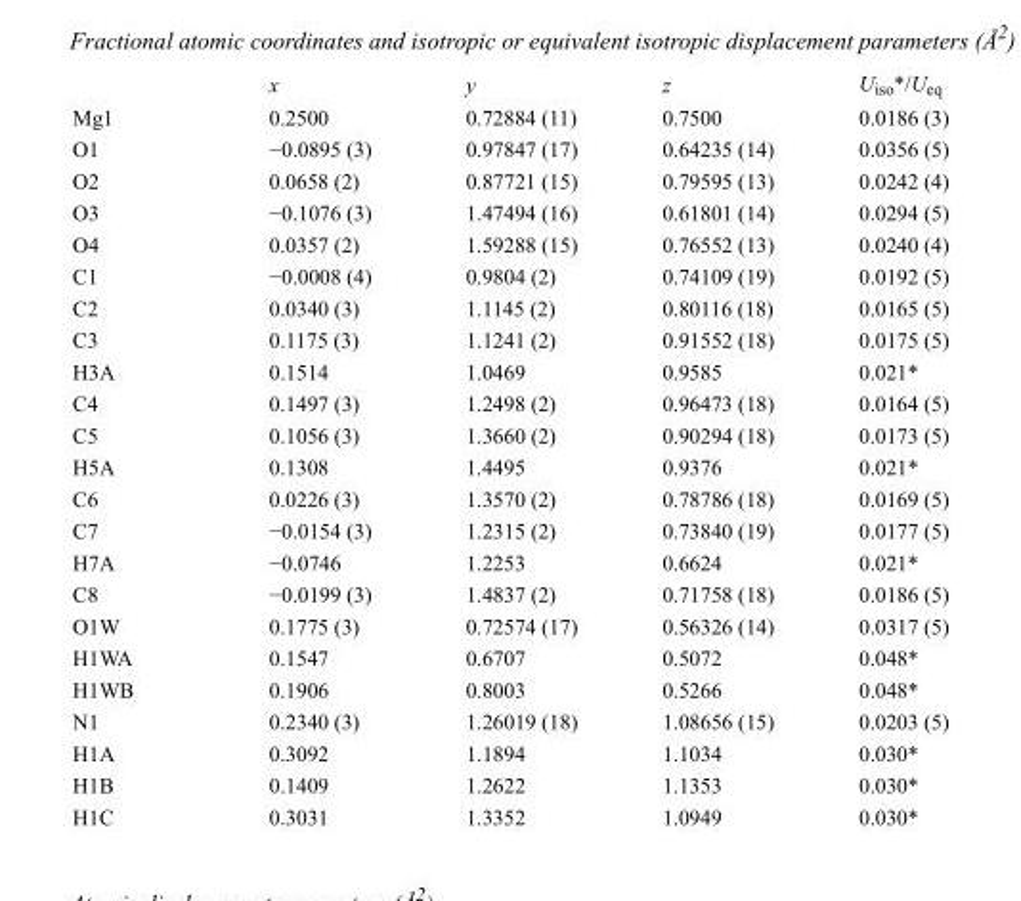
<table><thead><tr><td></td><td>x</td><td>y</td><td>z</td><td>U<sub>iso</sub>*/U<sub>eq</sub></td></tr></thead><tbody><tr><td>Mg1</td><td>0.2500</td><td>0.72884 (11)</td><td>0.7500</td><td>0.0186 (3)</td></tr><tr><td>O1</td><td>−0.0895 (3)</td><td>0.97847 (17)</td><td>0.64235 (14)</td><td>0.0356 (5)</td></tr><tr><td>O2</td><td>0.0658 (2)</td><td>0.87721 (15)</td><td>0.79595 (13)</td><td>0.0242 (4)</td></tr><tr><td>O3</td><td>−0.1076 (3)</td><td>1.47494 (16)</td><td>0.61801 (14)</td><td>0.0294 (5)</td></tr><tr><td>O4</td><td>0.0357 (2)</td><td>1.59288 (15)</td><td>0.76552 (13)</td><td>0.0240 (4)</td></tr><tr><td>C1</td><td>−0.0008 (4)</td><td>0.9804 (2)</td><td>0.74109 (19)</td><td>0.0192 (5)</td></tr><tr><td>C2</td><td>0.0340 (3)</td><td>1.1145 (2)</td><td>0.80116 (18)</td><td>0.0165 (5)</td></tr><tr><td>C3</td><td>0.1175 (3)</td><td>1.1241 (2)</td><td>0.91552 (18)</td><td>0.0175 (5)</td></tr><tr><td>H3A</td><td>0.1514</td><td>1.0469</td><td>0.9585</td><td>0.021*</td></tr><tr><td>C4</td><td>0.1497 (3)</td><td>1.2498 (2)</td><td>0.96473 (18)</td><td>0.0164 (5)</td></tr><tr><td>C5</td><td>0.1056 (3)</td><td>1.3660 (2)</td><td>0.90294 (18)</td><td>0.0173 (5)</td></tr><tr><td>H5A</td><td>0.1308</td><td>1.4495</td><td>0.9376</td><td>0.021*</td></tr><tr><td>C6</td><td>0.0226 (3)</td><td>1.3570 (2)</td><td>0.78786 (18)</td><td>0.0169 (5)</td></tr><tr><td>C7</td><td>−0.0154 (3)</td><td>1.2315 (2)</td><td>0.73840 (19)</td><td>0.0177 (5)</td></tr><tr><td>H7A</td><td>−0.0746</td><td>1.2253</td><td>0.6624</td><td>0.021*</td></tr><tr><td>C8</td><td>−0.0199 (3)</td><td>1.4837 (2)</td><td>0.71758 (18)</td><td>0.0186 (5)</td></tr><tr><td>O1W</td><td>0.1775 (3)</td><td>0.72574 (17)</td><td>0.56326 (14)</td><td>0.0317 (5)</td></tr><tr><td>H1WA</td><td>0.1547</td><td>0.6707</td><td>0.5072</td><td>0.048*</td></tr><tr><td>H1WB</td><td>0.1906</td><td>0.8003</td><td>0.5266</td><td>0.048*</td></tr><tr><td>N1</td><td>0.2340 (3)</td><td>1.26019 (18)</td><td>1.08656 (15)</td><td>0.0203 (5)</td></tr><tr><td>H1A</td><td>0.3092</td><td>1.1894</td><td>1.1034</td><td>0.030*</td></tr><tr><td>H1B</td><td>0.1409</td><td>1.2622</td><td>1.1353</td><td>0.030*</td></tr><tr><td>H1C</td><td>0.3031</td><td>1.3352</td><td>1.0949</td><td>0.030*</td></tr></tbody></table>